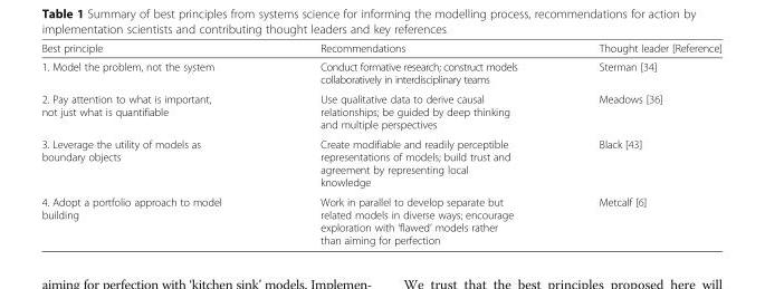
<table><thead><tr><td>Best principle</td><td>Recommendations</td><td>Thought leader [Reference]</td></tr></thead><tbody><tr><td>1. Model the problem, not the system</td><td>Conduct formative research; construct models collaboratively in interdisciplinary teams</td><td>Sterman [34]</td></tr><tr><td>2. Pay attention to what is important, not just what is quantifiable</td><td>Use qualitative data to derive causal relationships; be guided by deep thinking and multiple perspectives</td><td>Meadows [36]</td></tr><tr><td>3. Leverage the utility of models as boundary objects</td><td>Create modifiable and readily perceptible representations of models; build trust and agreement by representing local knowledge</td><td>Black [43]</td></tr><tr><td>4. Adopt a portfolio approach to model building</td><td>Work in parallel to develop separate but related models in diverse ways; encourage exploration with ‘flawed’ models rather than aiming for perfection</td><td>Metcalf [6]</td></tr></tbody></table>